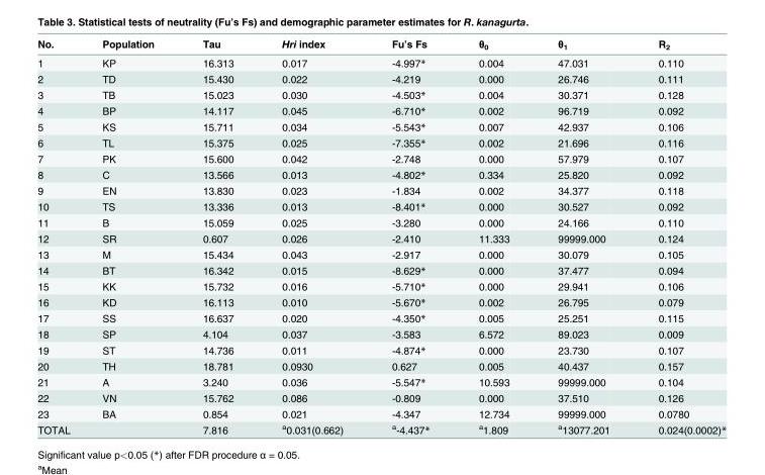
<table><thead><tr><td>No.</td><td>Population</td><td>Tau</td><td>Hri index</td><td>Fu’s Fs</td><td>θ<sub>0</sub></td><td>θ<sub>1</sub></td><td>R<sub>2</sub></td></tr></thead><tbody><tr><td>1</td><td>KP</td><td>16.313</td><td>0.017</td><td>-4.997*</td><td>0.004</td><td>47.031</td><td>0.110</td></tr><tr><td>2</td><td>TD</td><td>15.430</td><td>0.022</td><td>-4.219</td><td>0.000</td><td>26.746</td><td>0.111</td></tr><tr><td>3</td><td>TB</td><td>15.023</td><td>0.030</td><td>-4.503*</td><td>0.004</td><td>30.371</td><td>0.128</td></tr><tr><td>4</td><td>BP</td><td>14.117</td><td>0.045</td><td>-6.710*</td><td>0.002</td><td>96.719</td><td>0.092</td></tr><tr><td>5</td><td>KS</td><td>15.711</td><td>0.034</td><td>-5.543*</td><td>0.007</td><td>42.937</td><td>0.106</td></tr><tr><td>6</td><td>TL</td><td>15.375</td><td>0.025</td><td>-7.355*</td><td>0.002</td><td>21.696</td><td>0.116</td></tr><tr><td>7</td><td>PK</td><td>15.600</td><td>0.042</td><td>-2.748</td><td>0.000</td><td>57.979</td><td>0.107</td></tr><tr><td>8</td><td>C</td><td>13.566</td><td>0.013</td><td>-4.802*</td><td>0.334</td><td>25.820</td><td>0.092</td></tr><tr><td>9</td><td>EN</td><td>13.830</td><td>0.023</td><td>-1.834</td><td>0.002</td><td>34.377</td><td>0.118</td></tr><tr><td>10</td><td>TS</td><td>13.336</td><td>0.013</td><td>-8.401*</td><td>0.000</td><td>30.527</td><td>0.092</td></tr><tr><td>11</td><td>B</td><td>15.059</td><td>0.025</td><td>-3.280</td><td>0.000</td><td>24.166</td><td>0.110</td></tr><tr><td>12</td><td>SR</td><td>0.607</td><td>0.026</td><td>-2.410</td><td>11.333</td><td>99999.000</td><td>0.124</td></tr><tr><td>13</td><td>M</td><td>15.434</td><td>0.043</td><td>-2.917</td><td>0.000</td><td>30.079</td><td>0.105</td></tr><tr><td>14</td><td>BT</td><td>16.342</td><td>0.015</td><td>-8.629*</td><td>0.000</td><td>37.477</td><td>0.094</td></tr><tr><td>15</td><td>KK</td><td>15.732</td><td>0.016</td><td>-5.710*</td><td>0.000</td><td>29.941</td><td>0.106</td></tr><tr><td>16</td><td>KD</td><td>16.113</td><td>0.010</td><td>-5.670*</td><td>0.002</td><td>26.795</td><td>0.079</td></tr><tr><td>17</td><td>SS</td><td>16.637</td><td>0.020</td><td>-4.350*</td><td>0.005</td><td>25.251</td><td>0.115</td></tr><tr><td>18</td><td>SP</td><td>4.104</td><td>0.037</td><td>-3.583</td><td>6.572</td><td>89.023</td><td>0.009</td></tr><tr><td>19</td><td>ST</td><td>14.736</td><td>0.011</td><td>-4.874*</td><td>0.000</td><td>23.730</td><td>0.107</td></tr><tr><td>20</td><td>TH</td><td>18.781</td><td>0.0930</td><td>0.627</td><td>0.005</td><td>40.437</td><td>0.157</td></tr><tr><td>21</td><td>A</td><td>3.240</td><td>0.036</td><td>-5.547*</td><td>10.593</td><td>99999.000</td><td>0.104</td></tr><tr><td>22</td><td>VN</td><td>15.762</td><td>0.086</td><td>-0.809</td><td>0.000</td><td>37.510</td><td>0.126</td></tr><tr><td>23</td><td>BA</td><td>0.854</td><td>0.021</td><td>-4.347</td><td>12.734</td><td>99999.000</td><td>0.0780</td></tr><tr><td colspan="2">TOTAL</td><td>7.816</td><td><sup>a</sup>0.031(0.662)</td><td><sup>a</sup>-4.437*</td><td><sup>a</sup>1.809</td><td><sup>a</sup>13077.201</td><td>0.024(0.0002)*</td></tr></tbody></table>